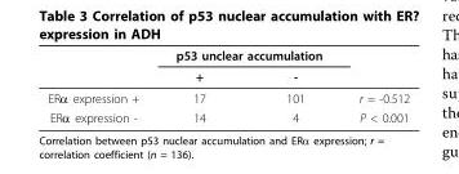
<table><thead><tr><td rowspan="2"></td><td colspan="2">p53 unclear accumulation</td><td rowspan="2"></td></tr><tr><td>+</td><td>-</td></tr></thead><tbody><tr><td>ERα expression +</td><td>17</td><td>101</td><td>r = -0.512</td></tr><tr><td>ERα expression -</td><td>14</td><td>4</td><td>P &lt; 0.001</td></tr></tbody></table>